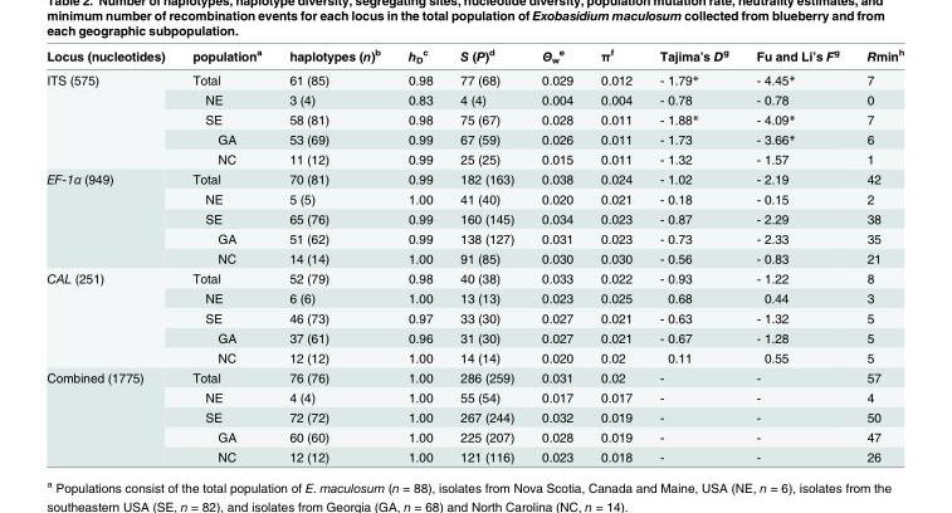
<table><thead><tr><td>Locus (nucleotides)</td><td>population<sup>a</sup></td><td>haplotypes (n)<sup>b</sup></td><td>h<sub>D</sub> <sup>c</sup></td><td>S (P)<sup>d</sup></td><td>Θ<sub>w</sub> <sup>e</sup></td><td>π<sup>f</sup></td><td>Tajima’s D<sup>g</sup></td><td>Fu and Li’s F<sup>g</sup></td><td>Rmin<sup>h</sup></td></tr></thead><tbody><tr><td rowspan="5">ITS (575)</td><td>Total</td><td>61 (85)</td><td>0.98</td><td>77 (68)</td><td>0.029</td><td>0.012</td><td>- 1.79*</td><td>- 4.45*</td><td>7</td></tr><tr><td>NE</td><td>3 (4)</td><td>0.83</td><td>4 (4)</td><td>0.004</td><td>0.004</td><td>- 0.78</td><td>- 0.78</td><td>0</td></tr><tr><td>SE</td><td>58 (81)</td><td>0.98</td><td>75 (67)</td><td>0.028</td><td>0.011</td><td>- 1.88*</td><td>- 4.09*</td><td>7</td></tr><tr><td>GA</td><td>53 (69)</td><td>0.99</td><td>67 (59)</td><td>0.026</td><td>0.011</td><td>- 1.73</td><td>- 3.66*</td><td>6</td></tr><tr><td>NC</td><td>11 (12)</td><td>0.99</td><td>25 (25)</td><td>0.015</td><td>0.011</td><td>- 1.32</td><td>- 1.57</td><td>1</td></tr><tr><td rowspan="5">EF-1α (949)</td><td>Total</td><td>70 (81)</td><td>0.99</td><td>182 (163)</td><td>0.038</td><td>0.024</td><td>- 1.02</td><td>- 2.19</td><td>42</td></tr><tr><td>NE</td><td>5 (5)</td><td>1.00</td><td>41 (40)</td><td>0.020</td><td>0.021</td><td>- 0.18</td><td>- 0.15</td><td>2</td></tr><tr><td>SE</td><td>65 (76)</td><td>0.99</td><td>160 (145)</td><td>0.034</td><td>0.023</td><td>- 0.87</td><td>- 2.29</td><td>38</td></tr><tr><td>GA</td><td>51 (62)</td><td>0.99</td><td>138 (127)</td><td>0.031</td><td>0.023</td><td>- 0.73</td><td>- 2.33</td><td>35</td></tr><tr><td>NC</td><td>14 (14)</td><td>1.00</td><td>91 (85)</td><td>0.030</td><td>0.030</td><td>- 0.56</td><td>- 0.83</td><td>21</td></tr><tr><td rowspan="5">CAL (251)</td><td>Total</td><td>52 (79)</td><td>0.98</td><td>40 (38)</td><td>0.033</td><td>0.022</td><td>- 0.93</td><td>- 1.22</td><td>8</td></tr><tr><td>NE</td><td>6 (6)</td><td>1.00</td><td>13 (13)</td><td>0.023</td><td>0.025</td><td>0.68</td><td>0.44</td><td>3</td></tr><tr><td>SE</td><td>46 (73)</td><td>0.97</td><td>33 (30)</td><td>0.027</td><td>0.021</td><td>- 0.63</td><td>- 1.32</td><td>5</td></tr><tr><td>GA</td><td>37 (61)</td><td>0.96</td><td>31 (30)</td><td>0.027</td><td>0.021</td><td>- 0.67</td><td>- 1.28</td><td>5</td></tr><tr><td>NC</td><td>12 (12)</td><td>1.00</td><td>14 (14)</td><td>0.020</td><td>0.02</td><td>0.11</td><td>0.55</td><td>5</td></tr><tr><td rowspan="5">Combined (1775)</td><td>Total</td><td>76 (76)</td><td>1.00</td><td>286 (259)</td><td>0.031</td><td>0.02</td><td>-</td><td>-</td><td>57</td></tr><tr><td>NE</td><td>4 (4)</td><td>1.00</td><td>55 (54)</td><td>0.017</td><td>0.017</td><td>-</td><td>-</td><td>4</td></tr><tr><td>SE</td><td>72 (72)</td><td>1.00</td><td>267 (244)</td><td>0.032</td><td>0.019</td><td>-</td><td>-</td><td>50</td></tr><tr><td>GA</td><td>60 (60)</td><td>1.00</td><td>225 (207)</td><td>0.028</td><td>0.019</td><td>-</td><td>-</td><td>47</td></tr><tr><td>NC</td><td>12 (12)</td><td>1.00</td><td>121 (116)</td><td>0.023</td><td>0.018</td><td>-</td><td>-</td><td>26</td></tr></tbody></table>